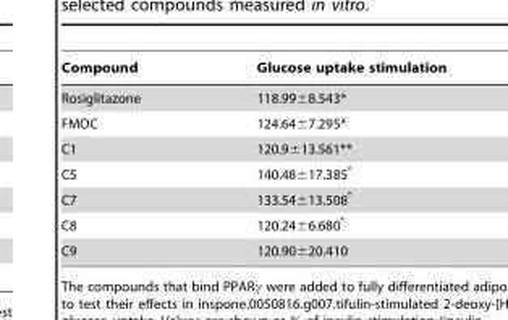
<table><thead><tr><td>Compound</td><td>Glucose uptake stimulation</td></tr></thead><tbody><tr><td>Rosiglitazone</td><td>118.99±8.543*</td></tr><tr><td>FMOC</td><td>124.64±7.295*</td></tr><tr><td>C1</td><td>120.9±13.561**</td></tr><tr><td>C5</td><td>140.48±17.385*</td></tr><tr><td>C7</td><td>133.54±13.508*</td></tr><tr><td>C8</td><td>120.24±6.680*</td></tr><tr><td>C9</td><td>120.90±20.410</td></tr></tbody></table>